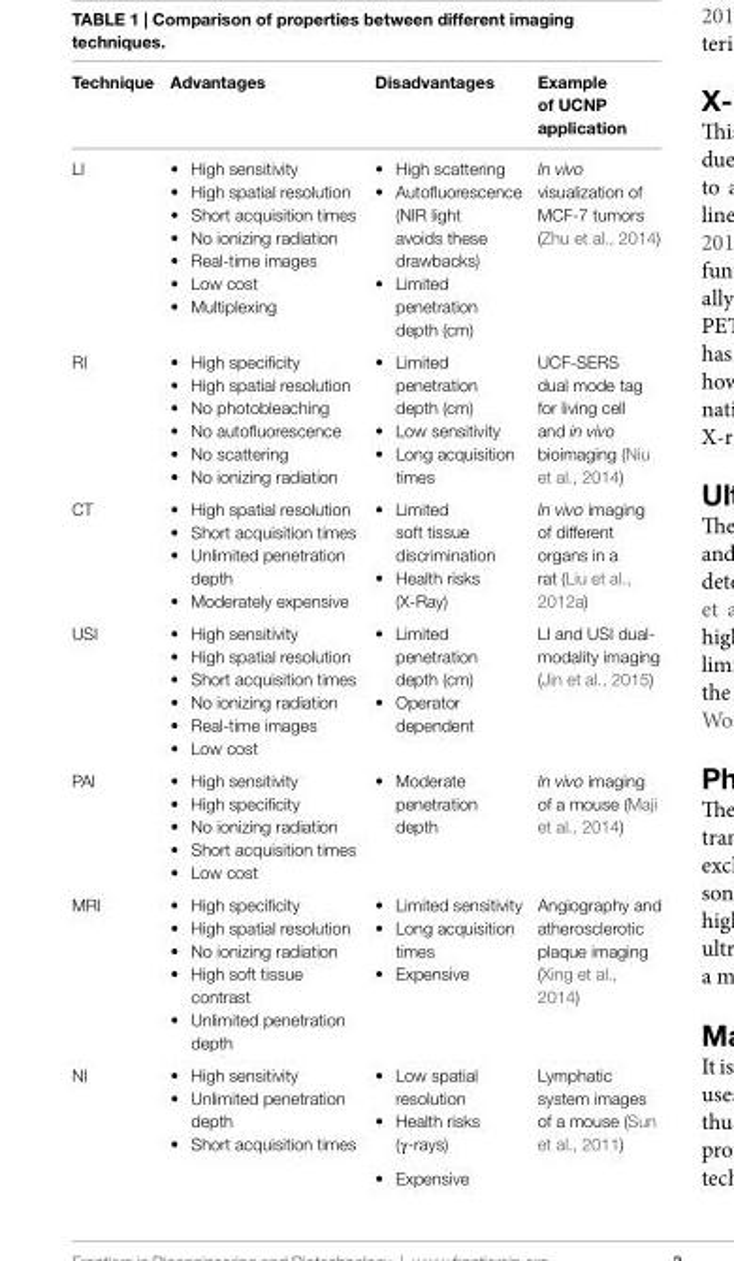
<table><thead><tr><td>Technique</td><td>Advantages</td><td>Disadvantages</td><td>example of UCnP application</td></tr></thead><tbody><tr><td>LI</td><td>• High sensitivity • High spatial resolution • Short acquisition times • No ionizing radiation • Real-time images • Low cost • Multiplexing</td><td>• High scattering • Autofluorescence (NIR light avoids these drawbacks) • Limited penetration depth (cm)</td><td>In vivo visualization of MCF-7 tumors (Zhu et al., 2014)</td></tr><tr><td>RI</td><td>• High specificity • High spatial resolution • No photobleaching • No autofluorescence • No scattering • No ionizing radiation</td><td>• Limited penetration depth (cm) • Low sensitivity • Long acquisition times</td><td>UCF-SERS dual mode tag for living cell and in vivo bioimaging (Niu et al., 2014)</td></tr><tr><td>CT</td><td>• High spatial resolution • Short acquisition times • Unlimited penetration depth • Moderately expensive</td><td>• Limited soft tissue discrimination • Health risks (X-Ray)</td><td>In vivo imaging of different organs in a rat (Liu et al., 2012a)</td></tr><tr><td>USI</td><td>• High sensitivity • High spatial resolution • Short acquisition times • No ionizing radiation • Real-time images • Low cost</td><td>• Limited penetration depth (cm) • Operator dependent</td><td>LI and USI dual- modality imaging (Jin et al., 2015)</td></tr><tr><td>PAI</td><td>• High sensitivity • High specificity • No ionizing radiation • Short acquisition times • Low cost</td><td>• Moderate penetration depth</td><td>In vivo imaging of a mouse (Maji et al., 2014)</td></tr><tr><td>MRI</td><td>• High specificity • High spatial resolution • No ionizing radiation • High soft tissue contrast • Unlimited penetration depth</td><td>• Limited sensitivity • Long acquisition times • Expensive</td><td>Angiography and atherosclerotic plaque imaging (Xing et al., 2014)</td></tr><tr><td>NI</td><td>• High sensitivity • Unlimited penetration depth • Short acquisition times</td><td>• Low spatial resolution • Health risks (γ-rays) • Expensive</td><td>Lymphatic system images of a mouse (Sun et al., 2011)</td></tr></tbody></table>